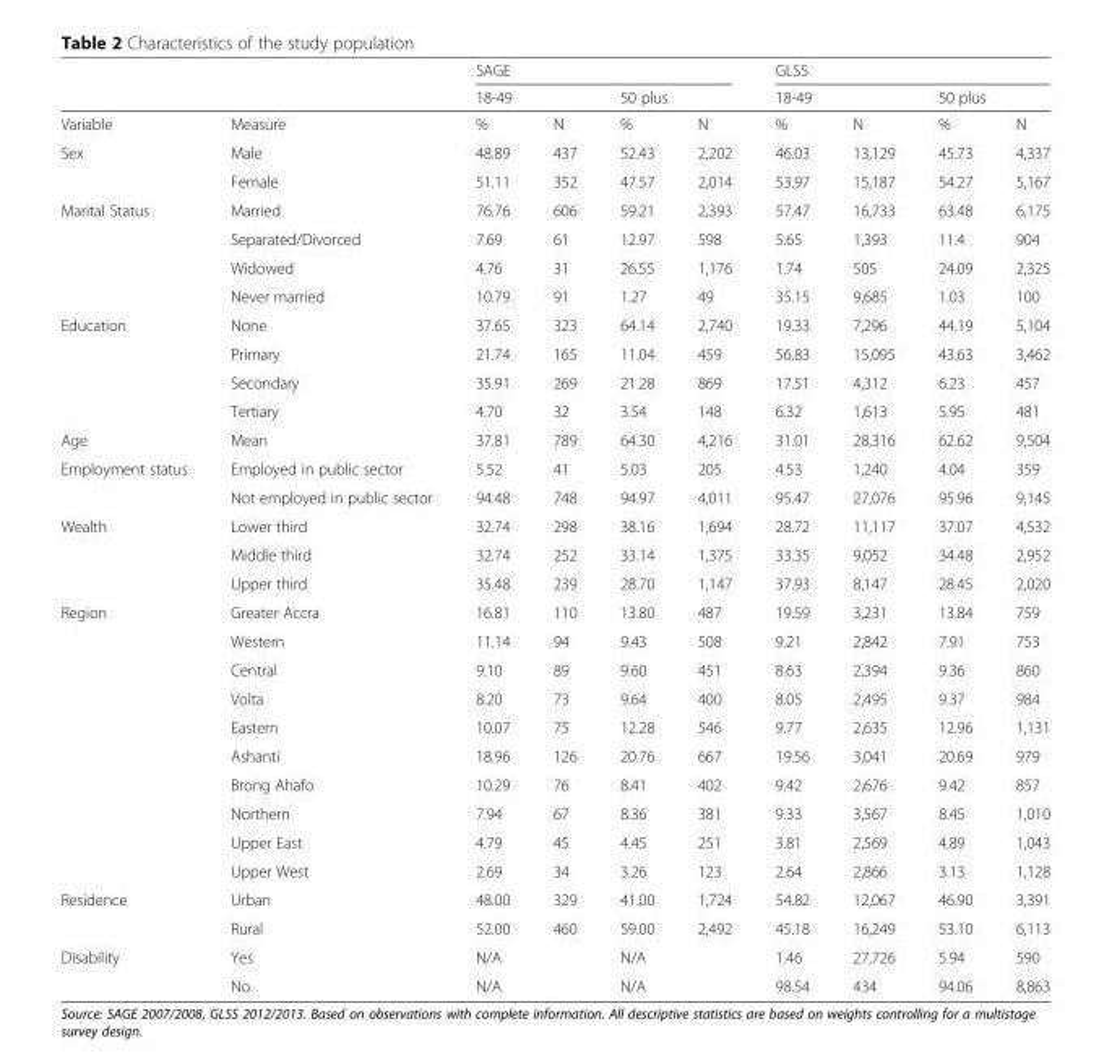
<table><thead><tr><td rowspan="3">Variable</td><td rowspan="3">Measure</td><td colspan="4">SAGE</td><td colspan="4">GLSS</td></tr><tr><td colspan="2">18-49</td><td colspan="2">50 plus</td><td colspan="2">18-49</td><td colspan="2">50 plus</td></tr><tr><td>%</td><td>N</td><td>%</td><td>N</td><td>%</td><td>N</td><td>%</td><td>N</td></tr></thead><tbody><tr><td rowspan="2">Sex</td><td>Male</td><td>48.89</td><td>437</td><td>52.43</td><td>2,202</td><td>46.03</td><td>13,129</td><td>45.73</td><td>4,337</td></tr><tr><td>Female</td><td>51.11</td><td>352</td><td>47.57</td><td>2,014</td><td>53.97</td><td>15,187</td><td>54.27</td><td>5,167</td></tr><tr><td rowspan="4">Marital Status</td><td>Married</td><td>76.76</td><td>606</td><td>59.21</td><td>2,393</td><td>57.47</td><td>16,733</td><td>63.48</td><td>6,175</td></tr><tr><td>Separated/Divorced</td><td>7.69</td><td>61</td><td>12.97</td><td>598</td><td>5.65</td><td>1,393</td><td>11.4</td><td>904</td></tr><tr><td>Widowed</td><td>4.76</td><td>31</td><td>26.55</td><td>1,176</td><td>1.74</td><td>505</td><td>24.09</td><td>2,325</td></tr><tr><td>Never married</td><td>10.79</td><td>91</td><td>1.27</td><td>49</td><td>35.15</td><td>9,685</td><td>1.03</td><td>100</td></tr><tr><td rowspan="4">Education</td><td>None</td><td>37.65</td><td>323</td><td>64.14</td><td>2,740</td><td>19.33</td><td>7,296</td><td>44.19</td><td>5,104</td></tr><tr><td>Primary</td><td>21.74</td><td>165</td><td>11.04</td><td>459</td><td>56.83</td><td>15,095</td><td>43.63</td><td>3,462</td></tr><tr><td>Secondary</td><td>35.91</td><td>269</td><td>21.28</td><td>869</td><td>17.51</td><td>4,312</td><td>6.23</td><td>457</td></tr><tr><td>Tertiary</td><td>4.70</td><td>32</td><td>3.54</td><td>148</td><td>6.32</td><td>1,613</td><td>5.95</td><td>481</td></tr><tr><td>Age</td><td>Mean</td><td>37.81</td><td>789</td><td>64.30</td><td>4,216</td><td>31.01</td><td>28,316</td><td>62.62</td><td>9,504</td></tr><tr><td rowspan="2">Employment status</td><td>Employed in public sector</td><td>5.52</td><td>41</td><td>5.03</td><td>205</td><td>4.53</td><td>1,240</td><td>4.04</td><td>359</td></tr><tr><td>Not employed in public sector</td><td>94.48</td><td>748</td><td>94.97</td><td>4,011</td><td>95.47</td><td>27,076</td><td>95.96</td><td>9,145</td></tr><tr><td rowspan="3">Wealth</td><td>Lower third</td><td>32.74</td><td>298</td><td>38.16</td><td>1,694</td><td>28.72</td><td>11,117</td><td>37.07</td><td>4,532</td></tr><tr><td>Middle third</td><td>32.74</td><td>252</td><td>33.14</td><td>1,375</td><td>33.35</td><td>9,052</td><td>34.48</td><td>2,952</td></tr><tr><td>Upper third</td><td>35.48</td><td>239</td><td>28.70</td><td>1,147</td><td>37.93</td><td>8,147</td><td>28.45</td><td>2,020</td></tr><tr><td rowspan="10">Region</td><td>Greater Accra</td><td>16.81</td><td>110</td><td>13.80</td><td>487</td><td>19.59</td><td>3,231</td><td>13.84</td><td>759</td></tr><tr><td>Western</td><td>11.14</td><td>94</td><td>9.43</td><td>508</td><td>9.21</td><td>2,842</td><td>7.91</td><td>753</td></tr><tr><td>Central</td><td>9.10</td><td>89</td><td>9.60</td><td>451</td><td>8.63</td><td>2,394</td><td>9.36</td><td>860</td></tr><tr><td>Volta</td><td>8.20</td><td>73</td><td>9.64</td><td>400</td><td>8.05</td><td>2,495</td><td>9.37</td><td>984</td></tr><tr><td>Eastern</td><td>10.07</td><td>75</td><td>12.28</td><td>546</td><td>9.77</td><td>2,635</td><td>12.96</td><td>1,131</td></tr><tr><td>Ashanti</td><td>18.96</td><td>126</td><td>20.76</td><td>667</td><td>19.56</td><td>3,041</td><td>20.69</td><td>979</td></tr><tr><td>Brong Ahafo</td><td>10.29</td><td>76</td><td>8.41</td><td>402</td><td>9.42</td><td>2,676</td><td>9.42</td><td>857</td></tr><tr><td>Northern</td><td>7.94</td><td>67</td><td>8.36</td><td>381</td><td>9.33</td><td>3,567</td><td>8.45</td><td>1,010</td></tr><tr><td>Upper East</td><td>4.79</td><td>45</td><td>4.45</td><td>251</td><td>3.81</td><td>2,569</td><td>4.89</td><td>1,043</td></tr><tr><td>Upper West</td><td>2.69</td><td>34</td><td>3.26</td><td>123</td><td>2.64</td><td>2,866</td><td>3.13</td><td>1,128</td></tr><tr><td rowspan="2">Residence</td><td>Urban</td><td>48.00</td><td>329</td><td>41.00</td><td>1,724</td><td>54.82</td><td>12,067</td><td>46.90</td><td>3,391</td></tr><tr><td>Rural</td><td>52.00</td><td>460</td><td>59.00</td><td>2,492</td><td>45.18</td><td>16,249</td><td>53.10</td><td>6,113</td></tr><tr><td rowspan="2">Disability</td><td>Yes</td><td>N/A</td><td></td><td>N/A</td><td></td><td>1.46</td><td>27,726</td><td>5.94</td><td>590</td></tr><tr><td>No</td><td>N/A</td><td></td><td>N/A</td><td></td><td>98.54</td><td>434</td><td>94.06</td><td>8,863</td></tr></tbody></table>